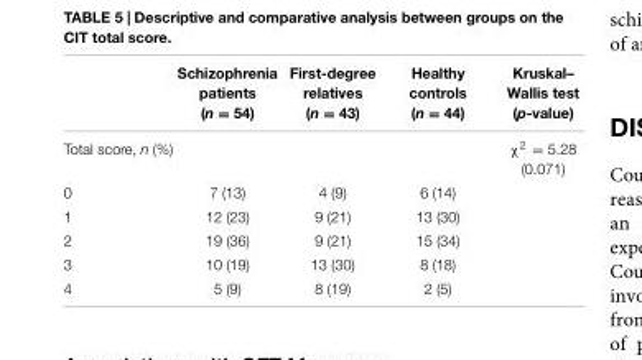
<table><thead><tr><td></td><td>Schizophrenia patients (n = 54)</td><td>First-degree relatives (n = 43)</td><td>Healthy controls (n = 44)</td><td>Kruskal– Wallis test (p-value)</td></tr></thead><tbody><tr><td>Total score, n (%)</td><td></td><td></td><td></td><td>χ<sup>2</sup> = 5.28 (0.071)</td></tr><tr><td>0</td><td>7 (13)</td><td>4 (9)</td><td>6 (14)</td><td></td></tr><tr><td>1</td><td>12 (23)</td><td>9 (21)</td><td>13 (30)</td><td></td></tr><tr><td>2</td><td>19 (36)</td><td>9 (21)</td><td>15 (34)</td><td></td></tr><tr><td>3</td><td>10 (19)</td><td>13 (30)</td><td>8 (18)</td><td></td></tr><tr><td>4</td><td>5 (9)</td><td>8 (19)</td><td>2 (5)</td><td></td></tr></tbody></table>